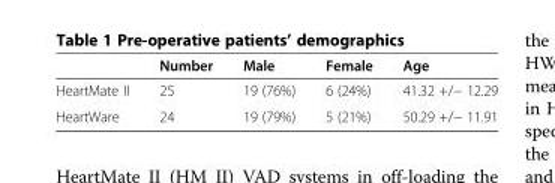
<table><thead><tr><td></td><td>Number</td><td>Male</td><td>Female</td><td>Age</td></tr></thead><tbody><tr><td>HeartMate II</td><td>25</td><td>19 (76%)</td><td>6 (24%)</td><td>41.32 +/− 12.29</td></tr><tr><td>HeartWare</td><td>24</td><td>19 (79%)</td><td>5 (21%)</td><td>50.29 +/− 11.91</td></tr></tbody></table>